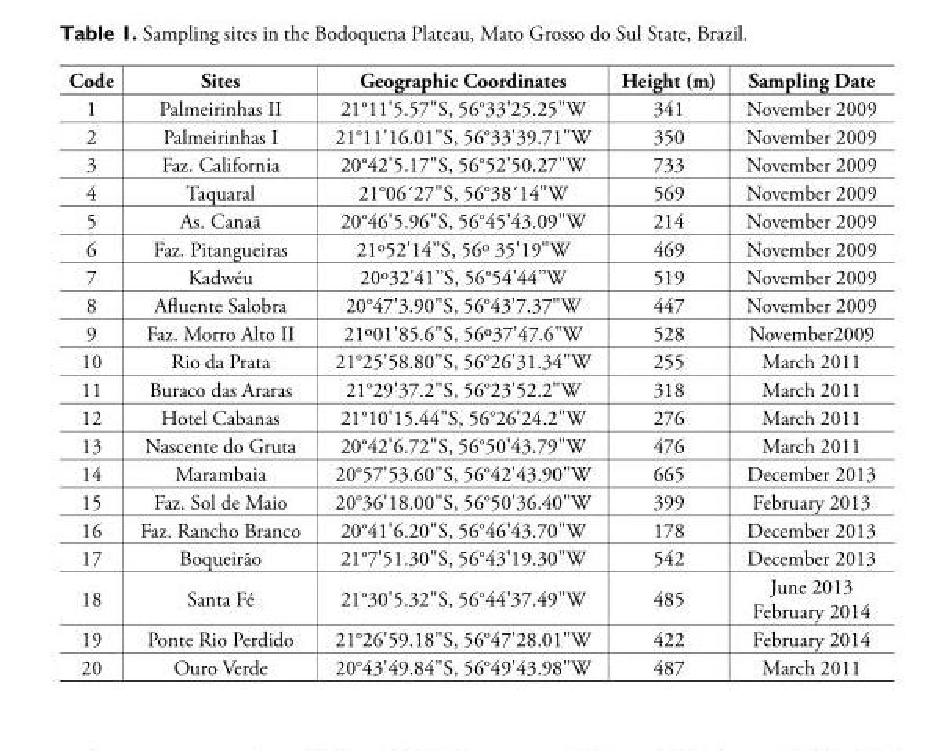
<table><thead><tr><td>Code</td><td>Sites</td><td>Geographic Coordinates</td><td>Height (m)</td><td>Sampling Date</td></tr></thead><tbody><tr><td>1</td><td>Palmeirinhas II</td><td>21°11&#x27;5.57&quot;S, 56°33&#x27;25.25&quot;W</td><td>341</td><td>November 2009</td></tr><tr><td>2</td><td>Palmeirinhas I</td><td>21°11&#x27;16.01&quot;S, 56°33&#x27;39.71&quot;W</td><td>350</td><td>November 2009</td></tr><tr><td>3</td><td>Faz. California</td><td>20°42&#x27;5.17&quot;S, 56°52&#x27;50.27&quot;W</td><td>733</td><td>November 2009</td></tr><tr><td>4</td><td>Taquaral</td><td>21°06´27&quot;S, 56°38´14&quot;W</td><td>569</td><td>November 2009</td></tr><tr><td>5</td><td>As. Canaã</td><td>20°46&#x27;5.96&quot;S, 56°45&#x27;43.09&quot;W</td><td>214</td><td>November 2009</td></tr><tr><td>6</td><td>Faz. Pitangueiras</td><td>21º52&#x27;14’’S, 56º 35&#x27;19&quot;W</td><td>469</td><td>November 2009</td></tr><tr><td>7</td><td>Kadwéu</td><td>20º32&#x27;41’’S, 56°54&#x27;44’’W</td><td>519</td><td>November 2009</td></tr><tr><td>8</td><td>Afluente Salobra</td><td>20°47&#x27;3.90&quot;S, 56°43&#x27;7.37&quot;W</td><td>447</td><td>November 2009</td></tr><tr><td>9</td><td>Faz. Morro Alto II</td><td>21º01&#x27;85.6&quot;S, 56º37&#x27;47.6&quot;W</td><td>528</td><td>November2009</td></tr><tr><td>10</td><td>Rio da Prata</td><td>21°25&#x27;58.80&quot;S, 56°26&#x27;31.34&quot;W</td><td>255</td><td>March 2011</td></tr><tr><td>11</td><td>Buraco das Araras</td><td>21°29&#x27;37.2&quot;S, 56°23&#x27;52.2&quot;W</td><td>318</td><td>March 2011</td></tr><tr><td>12</td><td>Hotel Cabanas</td><td>21°10&#x27;15.44&quot;S, 56°26&#x27;24.2&quot;W</td><td>276</td><td>March 2011</td></tr><tr><td>13</td><td>Nascente do Gruta</td><td>20°42&#x27;6.72&quot;S, 56°50&#x27;43.79&quot;W</td><td>476</td><td>March 2011</td></tr><tr><td>14</td><td>Marambaia</td><td>20°57&#x27;53.60&quot;S, 56°42&#x27;43.90&quot;W</td><td>665</td><td>December 2013</td></tr><tr><td>15</td><td>Faz. Sol de Maio</td><td>20°36&#x27;18.00&quot;S, 56°50&#x27;36.40&quot;W</td><td>399</td><td>February 2013</td></tr><tr><td>16</td><td>Faz. Rancho Branco</td><td>20°41&#x27;6.20&quot;S, 56°46&#x27;43.70&quot;W</td><td>178</td><td>December 2013</td></tr><tr><td>17</td><td>Boqueirão</td><td>21°7&#x27;51.30&quot;S, 56°43&#x27;19.30&quot;W</td><td>542</td><td>December 2013</td></tr><tr><td>18</td><td>Santa Fé</td><td>21°30&#x27;5.32&quot;S, 56°44&#x27;37.49&quot;W</td><td>485</td><td>June 2013 February 2014</td></tr><tr><td>19</td><td>Ponte Rio Perdido</td><td>21°26&#x27;59.18&quot;S, 56°47&#x27;28.01&quot;W</td><td>422</td><td>February 2014</td></tr><tr><td>20</td><td>Ouro Verde</td><td>20°43&#x27;49.84&quot;S, 56°49&#x27;43.98&quot;W</td><td>487</td><td>March 2011</td></tr></tbody></table>